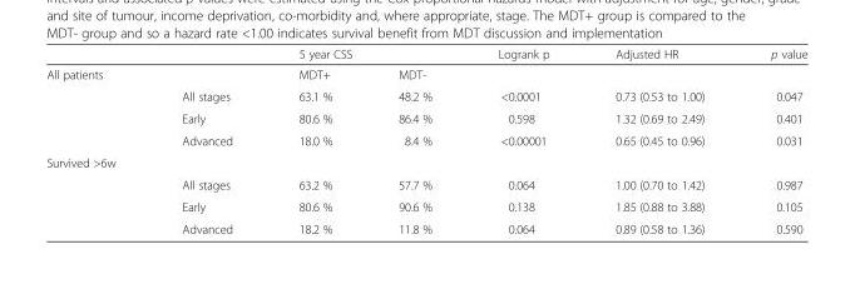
<table><thead><tr><td rowspan="2">All patients</td><td rowspan="2"></td><td colspan="2">5 year CSS</td><td rowspan="2">Logrank p</td><td rowspan="2">Adjusted HR</td><td rowspan="2">p value</td></tr><tr><td>MDT+</td><td>MDT-</td></tr></thead><tbody><tr><td></td><td>All stages</td><td>63.1 %</td><td>48.2 %</td><td>&lt;0.0001</td><td>0.73 (0.53 to 1.00)</td><td>0.047</td></tr><tr><td></td><td>Early</td><td>80.6 %</td><td>86.4 %</td><td>0.598</td><td>1.32 (0.69 to 2.49)</td><td>0.401</td></tr><tr><td></td><td>Advanced</td><td>18.0 %</td><td>8.4 %</td><td>&lt;0.00001</td><td>0.65 (0.45 to 0.96)</td><td>0.031</td></tr><tr><td colspan="7">Survived &gt;6w</td></tr><tr><td></td><td>All stages</td><td>63.2 %</td><td>57.7 %</td><td>0.064</td><td>1.00 (0.70 to 1.42)</td><td>0.987</td></tr><tr><td></td><td>Early</td><td>80.6 %</td><td>90.6 %</td><td>0.138</td><td>1.85 (0.88 to 3.88)</td><td>0.105</td></tr><tr><td></td><td>Advanced</td><td>18.2 %</td><td>11.8 %</td><td>0.064</td><td>0.89 (0.58 to 1.36)</td><td>0.590</td></tr></tbody></table>